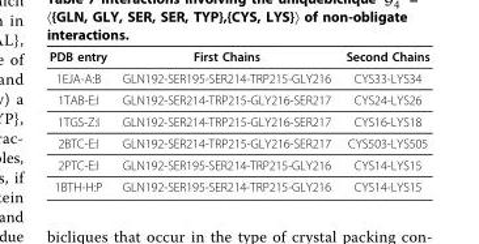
<table><thead><tr><td>PDB entry</td><td>First Chains</td><td>Second Chains</td></tr></thead><tbody><tr><td>1EJA-A:B</td><td>GLN192-SER195-SER214-TRP215-GLY216</td><td>CYS33-LYS34</td></tr><tr><td>1TAB-E:I</td><td>GLN192-SER214-TRP215-GLY216-SER217</td><td>CYS24-LYS26</td></tr><tr><td>1TGS-Z:I</td><td>GLN192-SER214-TRP215-GLY216-SER217</td><td>CYS16-LYS18</td></tr><tr><td>2BTC-E:I</td><td>GLN192-SER214-TRP215-GLY216-SER217</td><td>CYS503-LYS505</td></tr><tr><td>2PTC-E:I</td><td>GLN192-SER195-SER214-TRP215-GLY216</td><td>CYS14-LYS15</td></tr><tr><td>1BTH-H:P</td><td>GLN192-SER195-SER214-TRP215-GLY216</td><td>CYS14-LYS15</td></tr></tbody></table>